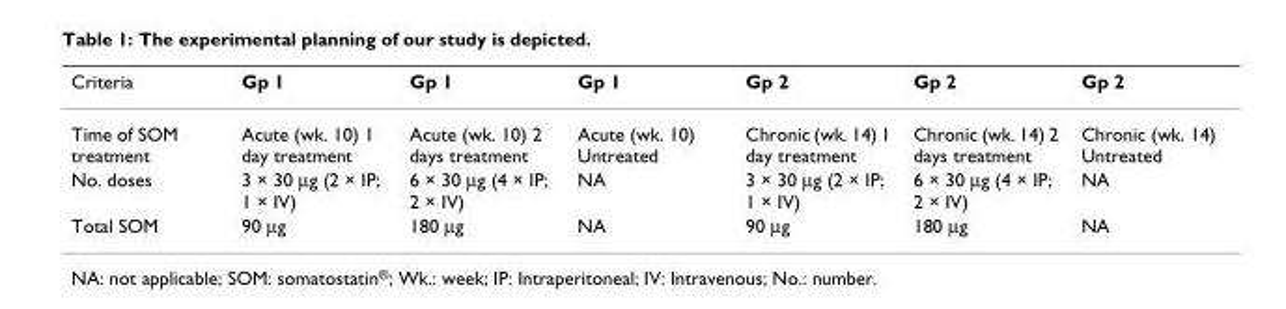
<table><thead><tr><td>Criteria</td><td>Gp 1</td><td>Gp 1</td><td>Gp 1</td><td>Gp 2</td><td>Gp 2</td><td>Gp 2</td></tr></thead><tbody><tr><td>Time of SOM treatment</td><td>Acute (wk. 10) 1 day treatment</td><td>Acute (wk. 10) 2 days treatment</td><td>Acute (wk. 10) Untreated</td><td>Chronic (wk. 14) 1 day treatment</td><td>Chronic (wk. 14) 2 days treatment</td><td>Chronic (wk. 14) Untreated</td></tr><tr><td>No. doses</td><td>3 × 30 µg (2 × IP; 1 × IV)</td><td>6 × 30 µg (4 × IP; 2 × IV)</td><td>NA</td><td>3 × 30 µg (2 × IP; 1 × IV)</td><td>6 × 30 µg (4 × IP; 2 × IV)</td><td>NA</td></tr><tr><td>Total SOM</td><td>90 µg</td><td>180 µg</td><td>NA</td><td>90 µg</td><td>180 µg</td><td>NA</td></tr></tbody></table>